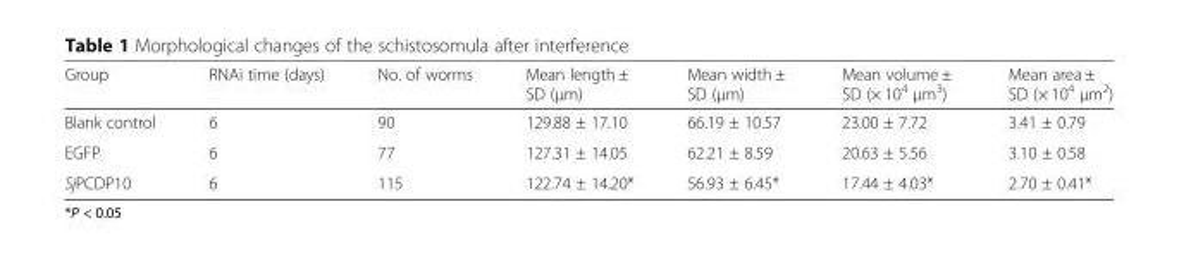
<table><thead><tr><td>Group</td><td>RNAi time (days)</td><td>No. of worms</td><td>Mean length ± SD (μm)</td><td>Mean width ± SD (μm)</td><td>Mean volume ± SD (× 10<sup>4</sup> μm<sup>3</sup>)</td><td>Mean area ± SD (× 10<sup>4</sup> μm<sup>2</sup>)</td></tr></thead><tbody><tr><td>Blank control</td><td>6</td><td>90</td><td>129.88 ± 17.10</td><td>66.19 ± 10.57</td><td>23.00 ± 7.72</td><td>3.41 ± 0.79</td></tr><tr><td>EGFP</td><td>6</td><td>77</td><td>127.31 ± 14.05</td><td>62.21 ± 8.59</td><td>20.63 ± 5.56</td><td>3.10 ± 0.58</td></tr><tr><td>SjPCDP10</td><td>6</td><td>115</td><td>122.74 ± 14.20*</td><td>56.93 ± 6.45*</td><td>17.44 ± 4.03*</td><td>2.70 ± 0.41*</td></tr></tbody></table>